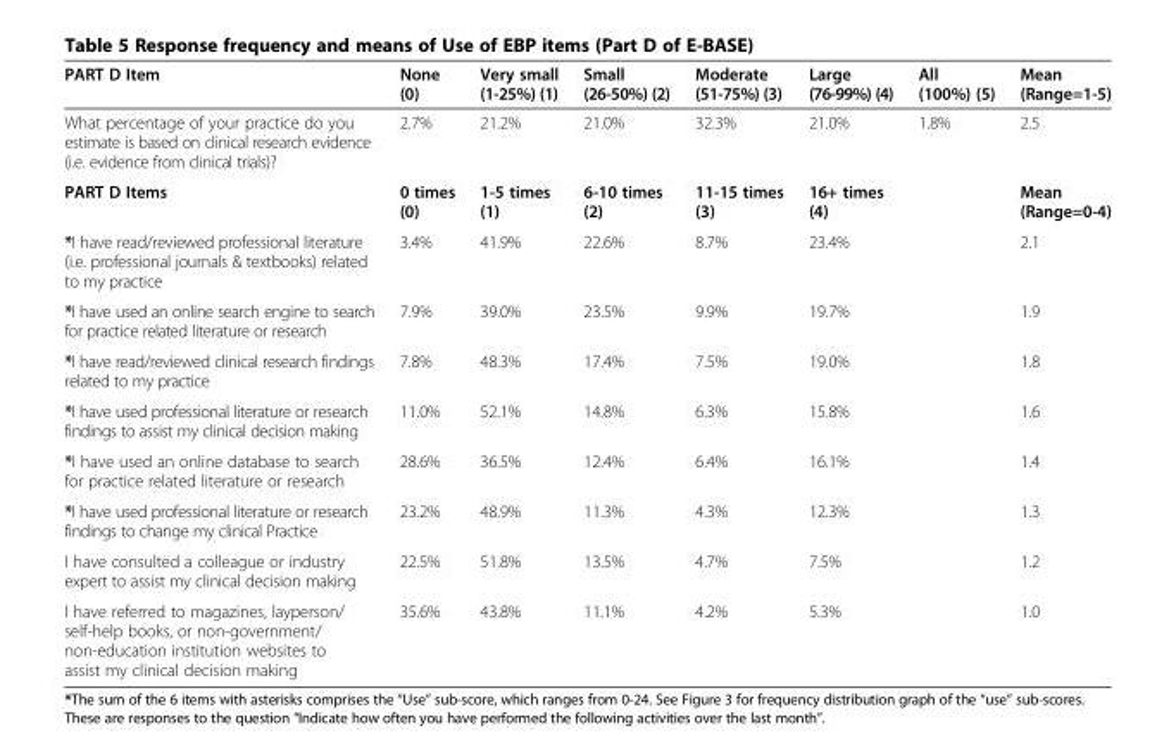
<table><thead><tr><td>PART D Item</td><td>None (0)</td><td>Very small (1-25%) (1)</td><td>Small (26-50%) (2)</td><td>Moderate (51-75%) (3)</td><td>Large (76-99%) (4)</td><td>All (100%) (5)</td><td>Mean (Range=1-5)</td></tr></thead><tbody><tr><td>What percentage of your practice do you estimate is based on clinical research evidence (i.e. evidence from clinical trials)?</td><td>2.7%</td><td>21.2%</td><td>21.0%</td><td>32.3%</td><td>21.0%</td><td>1.8%</td><td>2.5</td></tr><tr><td>PART D Items</td><td>0 times (0)</td><td>1-5 times (1)</td><td>6-10 times (2)</td><td>11-15 times (3)</td><td colspan="2">16+ times (4)</td><td>Mean (Range=0-4)</td></tr><tr><td>*I have read/reviewed professional literature (i.e. professional journals &amp; textbooks) related to my practice</td><td>3.4%</td><td>41.9%</td><td>22.6%</td><td>8.7%</td><td colspan="2">23.4%</td><td>2.1</td></tr><tr><td>*I have used an online search engine to search for practice related literature or research</td><td>7.9%</td><td>39.0%</td><td>23.5%</td><td>9.9%</td><td colspan="2">19.7%</td><td>1.9</td></tr><tr><td>*I have read/reviewed clinical research findings related to my practice</td><td>7.8%</td><td>48.3%</td><td>17.4%</td><td>7.5%</td><td colspan="2">19.0%</td><td>1.8</td></tr><tr><td>*I have used professional literature or research findings to assist my clinical decision making</td><td>11.0%</td><td>52.1%</td><td>14.8%</td><td>6.3%</td><td colspan="2">15.8%</td><td>1.6</td></tr><tr><td>*I have used an online database to search for practice related literature or research</td><td>28.6%</td><td>36.5%</td><td>12.4%</td><td>6.4%</td><td colspan="2">16.1%</td><td>1.4</td></tr><tr><td>*I have used professional literature or research findings to change my clinical Practice</td><td>23.2%</td><td>48.9%</td><td>11.3%</td><td>4.3%</td><td colspan="2">12.3%</td><td>1.3</td></tr><tr><td>I have consulted a colleague or industry expert to assist my clinical decision making</td><td>22.5%</td><td>51.8%</td><td>13.5%</td><td>4.7%</td><td colspan="2">7.5%</td><td>1.2</td></tr><tr><td>I have referred to magazines, layperson/ self-help books, or non-government/ non-education institution websites to assist my clinical decision making</td><td>35.6%</td><td>43.8%</td><td>11.1%</td><td>4.2%</td><td colspan="2">5.3%</td><td>1.0</td></tr></tbody></table>